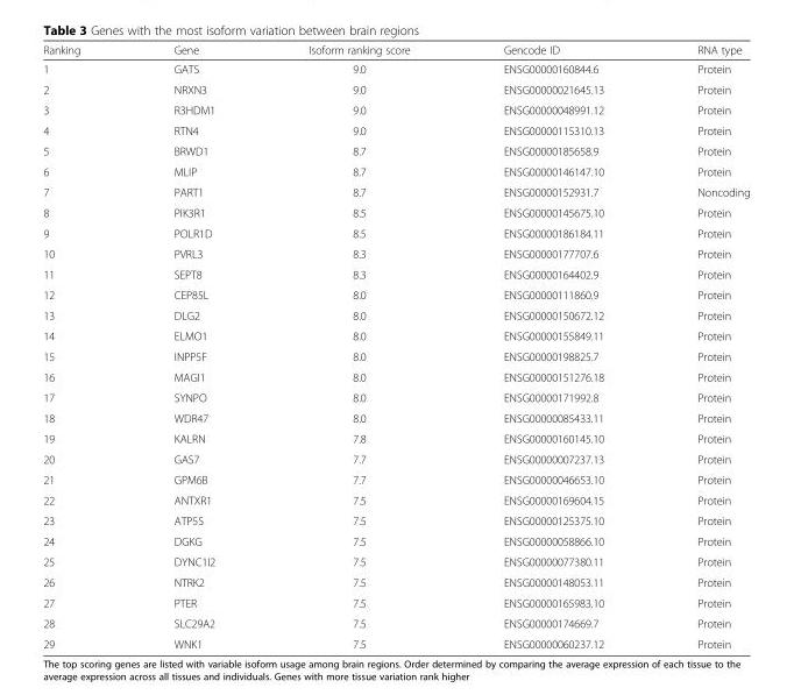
<table><thead><tr><td>Ranking</td><td>Gene</td><td>Isoform ranking score</td><td>Gencode ID</td><td>RNA type</td></tr></thead><tbody><tr><td>1</td><td>GATS</td><td>9.0</td><td>ENSG00000160844.6</td><td>Protein</td></tr><tr><td>2</td><td>NRXN3</td><td>9.0</td><td>ENSG00000021645.13</td><td>Protein</td></tr><tr><td>3</td><td>R3HDM1</td><td>9.0</td><td>ENSG00000048991.12</td><td>Protein</td></tr><tr><td>4</td><td>RTN4</td><td>9.0</td><td>ENSG00000115310.13</td><td>Protein</td></tr><tr><td>5</td><td>BRWD1</td><td>8.7</td><td>ENSG00000185658.9</td><td>Protein</td></tr><tr><td>6</td><td>MLIP</td><td>8.7</td><td>ENSG00000146147.10</td><td>Protein</td></tr><tr><td>7</td><td>PART1</td><td>8.7</td><td>ENSG00000152931.7</td><td>Noncoding</td></tr><tr><td>8</td><td>PIK3R1</td><td>8.5</td><td>ENSG00000145675.10</td><td>Protein</td></tr><tr><td>9</td><td>POLR1D</td><td>8.5</td><td>ENSG00000186184.11</td><td>Protein</td></tr><tr><td>10</td><td>PVRL3</td><td>8.3</td><td>ENSG00000177707.6</td><td>Protein</td></tr><tr><td>11</td><td>SEPT8</td><td>8.3</td><td>ENSG00000164402.9</td><td>Protein</td></tr><tr><td>12</td><td>CEP85L</td><td>8.0</td><td>ENSG00000111860.9</td><td>Protein</td></tr><tr><td>13</td><td>DLG2</td><td>8.0</td><td>ENSG00000150672.12</td><td>Protein</td></tr><tr><td>14</td><td>ELMO1</td><td>8.0</td><td>ENSG00000155849.11</td><td>Protein</td></tr><tr><td>15</td><td>INPP5F</td><td>8.0</td><td>ENSG00000198825.7</td><td>Protein</td></tr><tr><td>16</td><td>MAGI1</td><td>8.0</td><td>ENSG00000151276.18</td><td>Protein</td></tr><tr><td>17</td><td>SYNPO</td><td>8.0</td><td>ENSG00000171992.8</td><td>Protein</td></tr><tr><td>18</td><td>WDR47</td><td>8.0</td><td>ENSG00000085433.11</td><td>Protein</td></tr><tr><td>19</td><td>KALRN</td><td>7.8</td><td>ENSG00000160145.10</td><td>Protein</td></tr><tr><td>20</td><td>GAS7</td><td>7.7</td><td>ENSG00000007237.13</td><td>Protein</td></tr><tr><td>21</td><td>GPM6B</td><td>7.7</td><td>ENSG00000046653.10</td><td>Protein</td></tr><tr><td>22</td><td>ANTXR1</td><td>7.5</td><td>ENSG00000169604.15</td><td>Protein</td></tr><tr><td>23</td><td>ATP5S</td><td>7.5</td><td>ENSG00000125375.10</td><td>Protein</td></tr><tr><td>24</td><td>DGKG</td><td>7.5</td><td>ENSG00000058866.10</td><td>Protein</td></tr><tr><td>25</td><td>DYNC1I2</td><td>7.5</td><td>ENSG00000077380.11</td><td>Protein</td></tr><tr><td>26</td><td>NTRK2</td><td>7.5</td><td>ENSG00000148053.11</td><td>Protein</td></tr><tr><td>27</td><td>PTER</td><td>7.5</td><td>ENSG00000165983.10</td><td>Protein</td></tr><tr><td>28</td><td>SLC29A2</td><td>7.5</td><td>ENSG00000174669.7</td><td>Protein</td></tr><tr><td>29</td><td>WNK1</td><td>7.5</td><td>ENSG00000060237.12</td><td>Protein</td></tr></tbody></table>